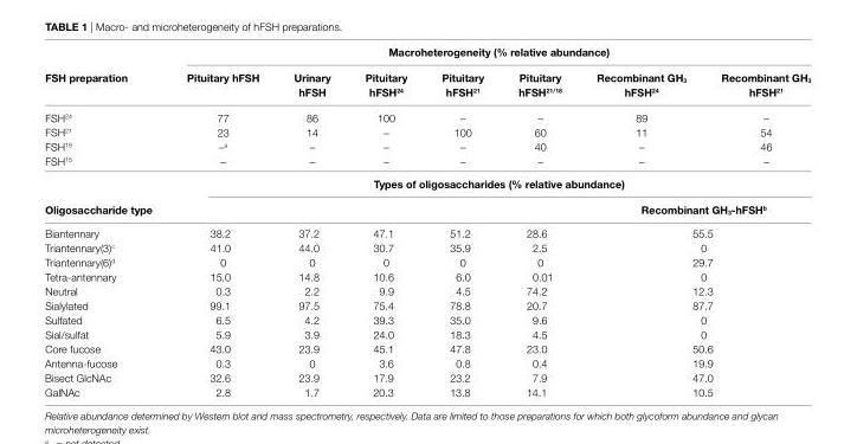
<table><thead><tr><td rowspan="2">FSH preparation</td><td colspan="7">Macroheterogeneity (% relative abundance)</td></tr><tr><td>Pituitary hFSH</td><td>Urinary hFSH</td><td>Pituitary hFSH<sup>24</sup></td><td>Pituitary hFSH<sup>21</sup></td><td>Pituitary hFSH<sup>21/18</sup></td><td>Recombinant GH<sub>3</sub> hFSH<sup>24</sup></td><td>Recombinant GH<sub>3</sub> hFSH<sup>21</sup></td></tr></thead><tbody><tr><td>FSH<sup>24</sup></td><td>77</td><td>86</td><td>100</td><td>–</td><td>–</td><td>89</td><td>–</td></tr><tr><td>FSH<sup>21</sup></td><td>23</td><td>14</td><td>–</td><td>100</td><td>60</td><td>11</td><td>54</td></tr><tr><td>FSH<sup>18</sup></td><td>–<sup>a</sup></td><td>–</td><td>–</td><td>–</td><td>40</td><td>–</td><td>46</td></tr><tr><td rowspan="2">FSH<sup>15</sup></td><td>–</td><td>–</td><td>–</td><td>–</td><td>–</td><td>–</td><td>–</td></tr><tr><td colspan="7">Types of oligosaccharides (% relative abundance)</td></tr><tr><td>Oligosaccharide type</td><td></td><td></td><td></td><td></td><td></td><td colspan="2">Recombinant GH<sub>3</sub>-hFSH<sup>b</sup></td></tr><tr><td>Biantennary</td><td>38.2</td><td>37.2</td><td>47.1</td><td>51.2</td><td>28.6</td><td colspan="2">55.5</td></tr><tr><td>Triantennary(3)<sup>c</sup></td><td>41.0</td><td>44.0</td><td>30.7</td><td>35.9</td><td>2.5</td><td colspan="2">0</td></tr><tr><td>Triantennary(6)<sup>d</sup></td><td>0</td><td>0</td><td>0</td><td>0</td><td>0</td><td colspan="2">29.7</td></tr><tr><td>Tetra-antennary</td><td>15.0</td><td>14.8</td><td>10.6</td><td>6.0</td><td>0.01</td><td colspan="2">0</td></tr><tr><td>Neutral</td><td>0.3</td><td>2.2</td><td>9.9</td><td>4.5</td><td>74.2</td><td colspan="2">12.3</td></tr><tr><td>Sialylated</td><td>99.1</td><td>97.5</td><td>75.4</td><td>78.8</td><td>20.7</td><td colspan="2">87.7</td></tr><tr><td>Sulfated</td><td>6.5</td><td>4.2</td><td>39.3</td><td>35.0</td><td>9.6</td><td colspan="2">0</td></tr><tr><td>Sial/sulfat</td><td>5.9</td><td>3.9</td><td>24.0</td><td>18.3</td><td>4.5</td><td colspan="2">0</td></tr><tr><td>Core fucose</td><td>43.0</td><td>23.9</td><td>45.1</td><td>47.8</td><td>23.0</td><td colspan="2">50.6</td></tr><tr><td>Antenna-fucose</td><td>0.3</td><td>0</td><td>3.6</td><td>0.8</td><td>0.4</td><td colspan="2">19.9</td></tr><tr><td>Bisect GlcNAc</td><td>32.6</td><td>23.9</td><td>17.9</td><td>23.2</td><td>7.9</td><td colspan="2">47.0</td></tr><tr><td>GalNAc</td><td>2.8</td><td>1.7</td><td>20.3</td><td>13.8</td><td>14.1</td><td colspan="2">10.5</td></tr></tbody></table>